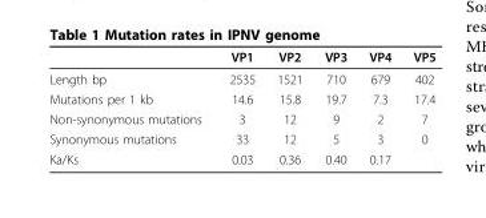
<table><thead><tr><td></td><td>VP1</td><td>VP2</td><td>VP3</td><td>VP4</td><td>VP5</td></tr></thead><tbody><tr><td>Length bp</td><td>2535</td><td>1521</td><td>710</td><td>679</td><td>402</td></tr><tr><td>Mutations per 1 kb</td><td>14.6</td><td>15.8</td><td>19.7</td><td>7.3</td><td>17.4</td></tr><tr><td>Non-synonymous mutations</td><td>3</td><td>12</td><td>9</td><td>2</td><td>7</td></tr><tr><td>Synonymous mutations</td><td>33</td><td>12</td><td>5</td><td>3</td><td>0</td></tr><tr><td>Ka/Ks</td><td>0.03</td><td>0.36</td><td>0.40</td><td>0.17</td><td></td></tr></tbody></table>